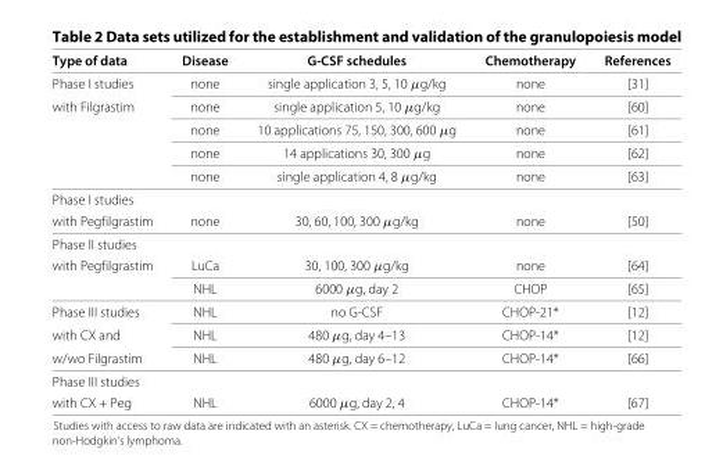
<table><thead><tr><td>Type of data</td><td>Disease</td><td>G-CSF schedules</td><td>Chemotherapy</td><td>References</td></tr></thead><tbody><tr><td rowspan="5">Phase I studies with Filgrastim</td><td>none</td><td>single application 3, 5, 10 μg/kg</td><td>none</td><td>[31]</td></tr><tr><td>none</td><td>single application 5, 10 μg/kg</td><td>none</td><td>[60]</td></tr><tr><td>none</td><td>10 applications 75, 150, 300, 600 μg</td><td>none</td><td>[61]</td></tr><tr><td>none</td><td>14 applications 30, 300 μg</td><td>none</td><td>[62]</td></tr><tr><td>none</td><td>single application 4, 8 μg/kg</td><td>none</td><td>[63]</td></tr><tr><td>Phase I studies with Pegfilgrastim</td><td>none</td><td>30, 60, 100, 300 μg/kg</td><td>none</td><td>[50]</td></tr><tr><td rowspan="2">Phase II studies with Pegfilgrastim</td><td>LuCa</td><td>30, 100, 300 μg/kg</td><td>none</td><td>[64]</td></tr><tr><td>NHL</td><td>6000 μg, day 2</td><td>CHOP</td><td>[65]</td></tr><tr><td rowspan="3">Phase III studies with CX and w/wo Filgrastim</td><td>NHL</td><td>no G-CSF</td><td>CHOP-21*</td><td>[12]</td></tr><tr><td>NHL</td><td>480 μg, day 4–13</td><td>CHOP-14*</td><td>[12]</td></tr><tr><td>NHL</td><td>480 μg, day 6–12</td><td>CHOP-14*</td><td>[66]</td></tr><tr><td>Phase III studies with CX + Peg</td><td>NHL</td><td>6000 μg, day 2, 4</td><td>CHOP-14*</td><td>[67]</td></tr></tbody></table>